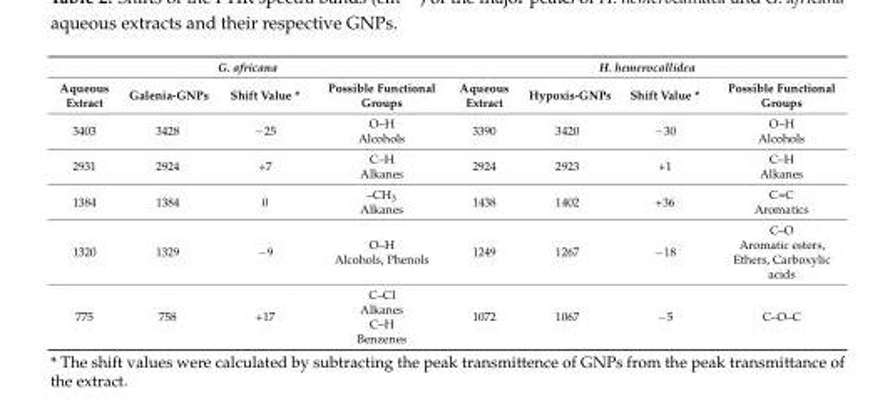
<table><thead><tr><td colspan="4">G. africana</td><td colspan="4">H. hemerocallidea</td></tr><tr><td>Aqueous Extract</td><td>Galenia-GNPs</td><td>Shift Value *</td><td>Possible Functional Groups</td><td>Aqueous Extract</td><td>Hypoxis-GNPs</td><td>Shift Value *</td><td>Possible Functional Groups</td></tr></thead><tbody><tr><td>3403</td><td>3428</td><td>−25</td><td>O–H Alcohols</td><td>3390</td><td>3420</td><td>−30</td><td>O–H Alcohols</td></tr><tr><td>2931</td><td>2924</td><td>+7</td><td>C–H Alkanes</td><td>2924</td><td>2923</td><td>+1</td><td>C–H Alkanes</td></tr><tr><td>1384</td><td>1384</td><td>0</td><td>–CH<sub>3</sub> Alkanes</td><td>1438</td><td>1402</td><td>+36</td><td>C=C Aromatics</td></tr><tr><td>1320</td><td>1329</td><td>−9</td><td>O–H Alcohols, Phenols</td><td>1249</td><td>1267</td><td>−18</td><td>C–O Aromatic esters, Ethers, Carboxylic acids</td></tr><tr><td>775</td><td>758</td><td>+17</td><td>C–Cl Alkanes C–H Benzenes</td><td>1072</td><td>1067</td><td>−5</td><td>C–O–C</td></tr></tbody></table>